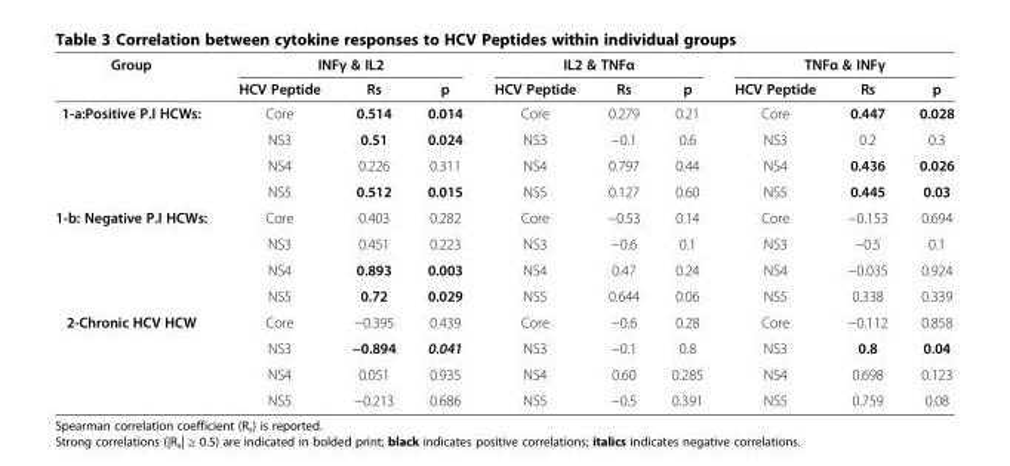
<table><thead><tr><td rowspan="2">Group</td><td colspan="3">INFγ &amp; IL2</td><td colspan="3">IL2 &amp; TNFα</td><td colspan="3">TNFα &amp; INFγ</td></tr><tr><td>HCV Peptide</td><td>Rs</td><td>p</td><td>HCV Peptide</td><td>Rs</td><td>p</td><td>HCV Peptide</td><td>Rs</td><td>p</td></tr></thead><tbody><tr><td rowspan="4">1-a:Positive P.I HCWs:</td><td>Core</td><td>0.514</td><td>0.014</td><td>Core</td><td>0.279</td><td>0.21</td><td>Core</td><td>0.447</td><td>0.028</td></tr><tr><td>NS3</td><td>0.51</td><td>0.024</td><td>NS3</td><td>−0.1</td><td>0.6</td><td>NS3</td><td>0.2</td><td>0.3</td></tr><tr><td>NS4</td><td>0.226</td><td>0.311</td><td>NS4</td><td>0.797</td><td>0.44</td><td>NS4</td><td>0.436</td><td>0.026</td></tr><tr><td>NS5</td><td>0.512</td><td>0.015</td><td>NS5</td><td>0.127</td><td>0.60</td><td>NS5</td><td>0.445</td><td>0.03</td></tr><tr><td rowspan="4">1-b: Negative P.I HCWs:</td><td>Core</td><td>0.403</td><td>0.282</td><td>Core</td><td>−0.53</td><td>0.14</td><td>Core</td><td>−0.153</td><td>0.694</td></tr><tr><td>NS3</td><td>0.451</td><td>0.223</td><td>NS3</td><td>−0.6</td><td>0.1</td><td>NS3</td><td>−0.5</td><td>0.1</td></tr><tr><td>NS4</td><td>0.893</td><td>0.003</td><td>NS4</td><td>0.47</td><td>0.24</td><td>NS4</td><td>−0.035</td><td>0.924</td></tr><tr><td>NS5</td><td>0.72</td><td>0.029</td><td>NS5</td><td>0.644</td><td>0.06</td><td>NS5</td><td>0.338</td><td>0.339</td></tr><tr><td rowspan="4">2-Chronic HCV HCW</td><td>Core</td><td>−0.395</td><td>0.439</td><td>Core</td><td>−0.6</td><td>0.28</td><td>Core</td><td>−0.112</td><td>0.858</td></tr><tr><td>NS3</td><td>−0.894</td><td>0.041</td><td>NS3</td><td>−0.1</td><td>0.8</td><td>NS3</td><td>0.8</td><td>0.04</td></tr><tr><td>NS4</td><td>0.051</td><td>0.935</td><td>NS4</td><td>0.60</td><td>0.285</td><td>NS4</td><td>0.698</td><td>0.123</td></tr><tr><td>NS5</td><td>−0.213</td><td>0.686</td><td>NS5</td><td>−0.5</td><td>0.391</td><td>NS5</td><td>0.759</td><td>0.08</td></tr></tbody></table>